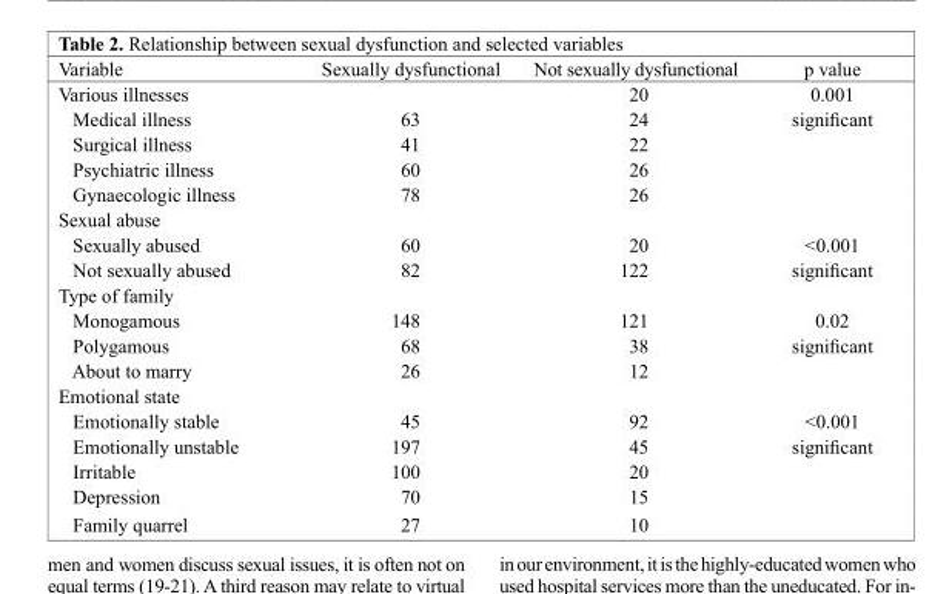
<table><thead><tr><td>Variable</td><td>Sexually dysfunctional</td><td>Not sexually dysfunctional</td><td>p value</td></tr></thead><tbody><tr><td>Various illnesses</td><td></td><td>20</td><td>0.001</td></tr><tr><td>Medical illness</td><td>63</td><td>24</td><td>significant</td></tr><tr><td>Surgical illness</td><td>41</td><td>22</td><td></td></tr><tr><td>Psychiatric illness</td><td>60</td><td>26</td><td></td></tr><tr><td>Gynaecologic illness</td><td>78</td><td>26</td><td></td></tr><tr><td colspan="4">Sexual abuse</td></tr><tr><td>Sexually abused</td><td>60</td><td>20</td><td>&lt;0.001</td></tr><tr><td>Not sexually abused</td><td>82</td><td>122</td><td>significant</td></tr><tr><td colspan="4">Type of family</td></tr><tr><td>Monogamous</td><td>148</td><td>121</td><td>0.02</td></tr><tr><td>Polygamous</td><td>68</td><td>38</td><td>significant</td></tr><tr><td>About to marry</td><td>26</td><td>12</td><td></td></tr><tr><td colspan="4">Emotional state</td></tr><tr><td>Emotionally stable</td><td>45</td><td>92</td><td>&lt;0.001</td></tr><tr><td>Emotionally unstable</td><td>197</td><td>45</td><td>significant</td></tr><tr><td>Irritable</td><td>100</td><td>20</td><td></td></tr><tr><td>Depression</td><td>70</td><td>15</td><td></td></tr><tr><td>Family quarrel</td><td>27</td><td>10</td><td></td></tr></tbody></table>